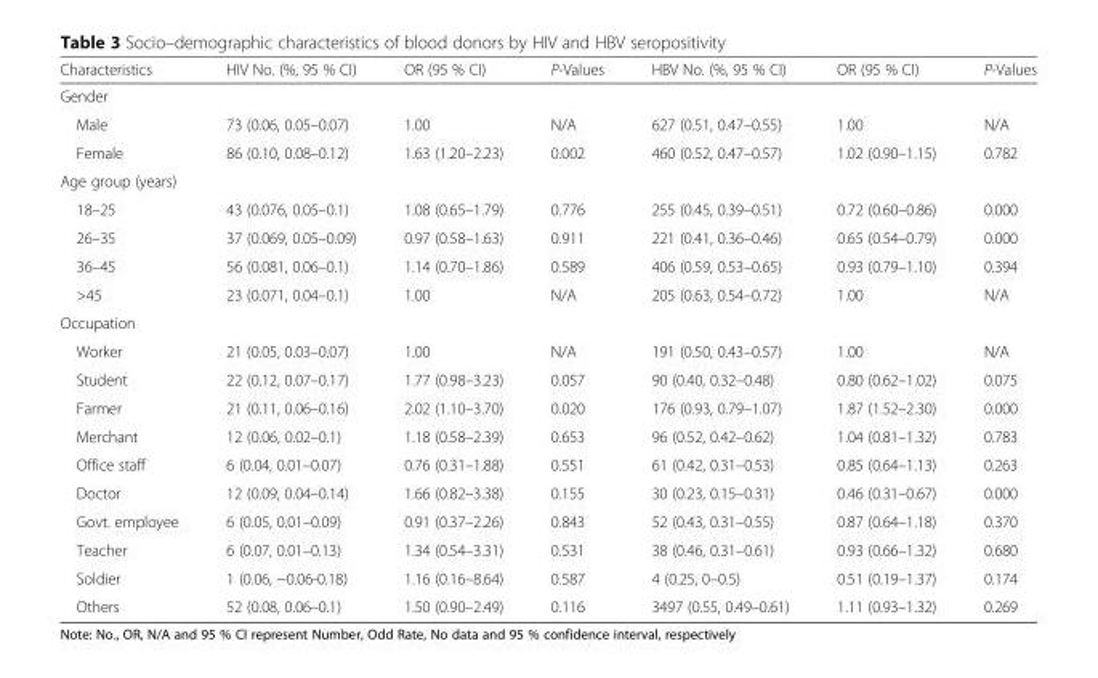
<table><thead><tr><td>Characteristics</td><td>HIV No. (%, 95 % CI)</td><td>OR (95 % CI)</td><td>P-Values</td><td>HBV No. (%, 95 % CI)</td><td>OR (95 % CI)</td><td>P-Values</td></tr></thead><tbody><tr><td colspan="7">Gender</td></tr><tr><td>Male</td><td>73 (0.06, 0.05–0.07)</td><td>1.00</td><td>N/A</td><td>627 (0.51, 0.47–0.55)</td><td>1.00</td><td>N/A</td></tr><tr><td>Female</td><td>86 (0.10, 0.08–0.12)</td><td>1.63 (1.20–2.23)</td><td>0.002</td><td>460 (0.52, 0.47–0.57)</td><td>1.02 (0.90–1.15)</td><td>0.782</td></tr><tr><td colspan="7">Age group (years)</td></tr><tr><td>18–25</td><td>43 (0.076, 0.05–0.1)</td><td>1.08 (0.65–1.79)</td><td>0.776</td><td>255 (0.45, 0.39–0.51)</td><td>0.72 (0.60–0.86)</td><td>0.000</td></tr><tr><td>26–35</td><td>37 (0.069, 0.05–0.09)</td><td>0.97 (0.58–1.63)</td><td>0.911</td><td>221 (0.41, 0.36–0.46)</td><td>0.65 (0.54–0.79)</td><td>0.000</td></tr><tr><td>36–45</td><td>56 (0.081, 0.06–0.1)</td><td>1.14 (0.70–1.86)</td><td>0.589</td><td>406 (0.59, 0.53–0.65)</td><td>0.93 (0.79–1.10)</td><td>0.394</td></tr><tr><td>&gt;45</td><td>23 (0.071, 0.04–0.1)</td><td>1.00</td><td>N/A</td><td>205 (0.63, 0.54–0.72)</td><td>1.00</td><td>N/A</td></tr><tr><td colspan="7">Occupation</td></tr><tr><td>Worker</td><td>21 (0.05, 0.03–0.07)</td><td>1.00</td><td>N/A</td><td>191 (0.50, 0.43–0.57)</td><td>1.00</td><td>N/A</td></tr><tr><td>Student</td><td>22 (0.12, 0.07–0.17)</td><td>1.77 (0.98–3.23)</td><td>0.057</td><td>90 (0.40, 0.32–0.48)</td><td>0.80 (0.62–1.02)</td><td>0.075</td></tr><tr><td>Farmer</td><td>21 (0.11, 0.06–0.16)</td><td>2.02 (1.10–3.70)</td><td>0.020</td><td>176 (0.93, 0.79–1.07)</td><td>1.87 (1.52–2.30)</td><td>0.000</td></tr><tr><td>Merchant</td><td>12 (0.06, 0.02–0.1)</td><td>1.18 (0.58–2.39)</td><td>0.653</td><td>96 (0.52, 0.42–0.62)</td><td>1.04 (0.81–1.32)</td><td>0.783</td></tr><tr><td>Office staff</td><td>6 (0.04, 0.01–0.07)</td><td>0.76 (0.31–1.88)</td><td>0.551</td><td>61 (0.42, 0.31–0.53)</td><td>0.85 (0.64–1.13)</td><td>0.263</td></tr><tr><td>Doctor</td><td>12 (0.09, 0.04–0.14)</td><td>1.66 (0.82–3.38)</td><td>0.155</td><td>30 (0.23, 0.15–0.31)</td><td>0.46 (0.31–0.67)</td><td>0.000</td></tr><tr><td>Govt. employee</td><td>6 (0.05, 0.01–0.09)</td><td>0.91 (0.37–2.26)</td><td>0.843</td><td>52 (0.43, 0.31–0.55)</td><td>0.87 (0.64–1.18)</td><td>0.370</td></tr><tr><td>Teacher</td><td>6 (0.07, 0.01–0.13)</td><td>1.34 (0.54–3.31)</td><td>0.531</td><td>38 (0.46, 0.31–0.61)</td><td>0.93 (0.66–1.32)</td><td>0.680</td></tr><tr><td>Soldier</td><td>1 (0.06, −0.06-0.18)</td><td>1.16 (0.16–8.64)</td><td>0.587</td><td>4 (0.25, 0–0.5)</td><td>0.51 (0.19–1.37)</td><td>0.174</td></tr><tr><td>Others</td><td>52 (0.08, 0.06–0.1)</td><td>1.50 (0.90–2.49)</td><td>0.116</td><td>3497 (0.55, 0.49–0.61)</td><td>1.11 (0.93–1.32)</td><td>0.269</td></tr></tbody></table>